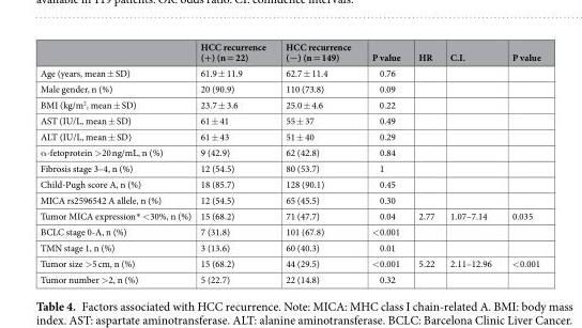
<table><thead><tr><td></td><td>HCC recurrence (+) (n = 22)</td><td>HCC recurrence (−) (n = 149)</td><td>P value</td><td>HR</td><td>C.I.</td><td>P value</td></tr></thead><tbody><tr><td>Age (years, mean ± SD)</td><td>61.9 ± 11.9</td><td>62.7 ± 11.4</td><td>0.76</td><td></td><td></td><td></td></tr><tr><td>Male gender, n (%)</td><td>20 (90.9)</td><td>110 (73.8)</td><td>0.09</td><td></td><td></td><td></td></tr><tr><td>BMI (kg/m<sup>2</sup>, mean ± SD)</td><td>23.7 ± 3.6</td><td>25.0 ± 4.6</td><td>0.22</td><td></td><td></td><td></td></tr><tr><td>AST (IU/L, mean ± SD)</td><td>61 ± 41</td><td>55 ± 37</td><td>0.49</td><td></td><td></td><td></td></tr><tr><td>ALT (IU/L, mean ± SD)</td><td>61 ± 43</td><td>51 ± 40</td><td>0.29</td><td></td><td></td><td></td></tr><tr><td>α-fetoprotein &gt;20 ng/mL, n (%)</td><td>9 (42.9)</td><td>62 (42.8)</td><td>0.84</td><td></td><td></td><td></td></tr><tr><td>Fibrosis stage 3–4, n (%)</td><td>12 (54.5)</td><td>80 (53.7)</td><td>1</td><td></td><td></td><td></td></tr><tr><td>Child-Pugh score A, n (%)</td><td>18 (85.7)</td><td>128 (90.1)</td><td>0.45</td><td></td><td></td><td></td></tr><tr><td>MICA rs2596542 A allele, n (%)</td><td>12 (54.5)</td><td>65 (45.5)</td><td>0.30</td><td></td><td></td><td></td></tr><tr><td>Tumor MICA expression* &lt;30%, n (%)</td><td>15 (68.2)</td><td>71 (47.7)</td><td>0.04</td><td>2.77</td><td>1.07–7.14</td><td>0.035</td></tr><tr><td>BCLC stage 0-A, n (%)</td><td>7 (31.8)</td><td>101 (67.8)</td><td>&lt;0.001</td><td></td><td></td><td></td></tr><tr><td>TMN stage 1, n (%)</td><td>3 (13.6)</td><td>60 (40.3)</td><td>0.01</td><td></td><td></td><td></td></tr><tr><td>Tumor size &gt;5 cm, n (%)</td><td>15 (68.2)</td><td>44 (29.5)</td><td>&lt;0.001</td><td>5.22</td><td>2.11–12.96</td><td>&lt;0.001</td></tr><tr><td>Tumor number &gt;2, n (%)</td><td>5 (22.7)</td><td>22 (14.8)</td><td>0.32</td><td></td><td></td><td></td></tr></tbody></table>